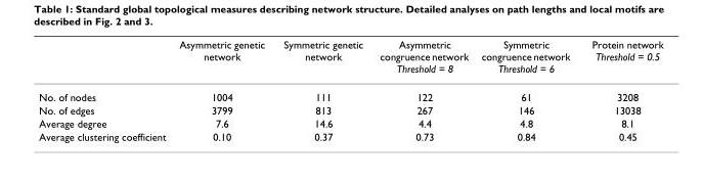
<table><thead><tr><td></td><td>Asymmetric genetic network</td><td>Symmetric genetic network</td><td>Asymmetric congruence network Threshold = 8</td><td>Symmetric congruence network Threshold = 6</td><td>Protein network Threshold = 0.5</td></tr></thead><tbody><tr><td>No. of nodes</td><td>1004</td><td>111</td><td>122</td><td>61</td><td>3208</td></tr><tr><td>No. of edges</td><td>3799</td><td>813</td><td>267</td><td>146</td><td>13038</td></tr><tr><td>Average degree</td><td>7.6</td><td>14.6</td><td>4.4</td><td>4.8</td><td>8.1</td></tr><tr><td>Average clustering coefficient</td><td>0.10</td><td>0.37</td><td>0.73</td><td>0.84</td><td>0.45</td></tr></tbody></table>